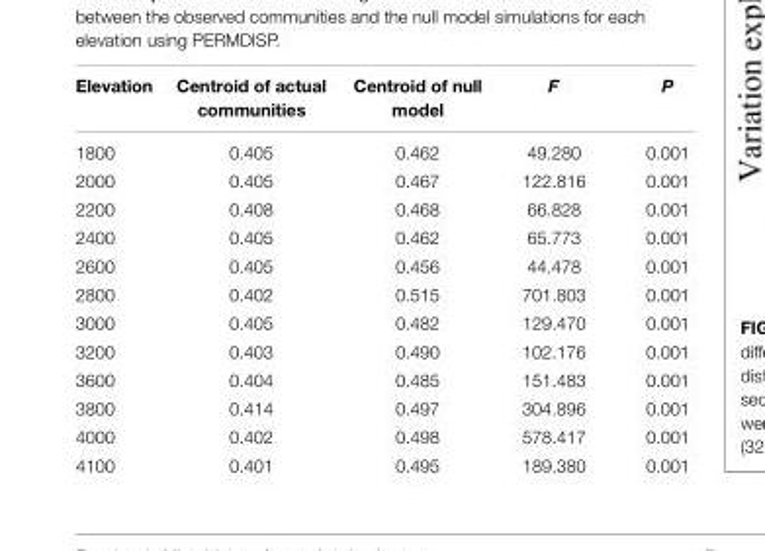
<table><thead><tr><td>Elevation</td><td>Centroid of actual communities</td><td>Centroid of null model</td><td>F</td><td>P</td></tr></thead><tbody><tr><td>1800</td><td>0.405</td><td>0.462</td><td>49.280</td><td>0.001</td></tr><tr><td>2000</td><td>0.405</td><td>0.467</td><td>122.816</td><td>0.001</td></tr><tr><td>2200</td><td>0.408</td><td>0.468</td><td>66.828</td><td>0.001</td></tr><tr><td>2400</td><td>0.405</td><td>0.462</td><td>65.773</td><td>0.001</td></tr><tr><td>2600</td><td>0.405</td><td>0.456</td><td>44.478</td><td>0.001</td></tr><tr><td>2800</td><td>0.402</td><td>0.515</td><td>701.803</td><td>0.001</td></tr><tr><td>3000</td><td>0.405</td><td>0.482</td><td>129.470</td><td>0.001</td></tr><tr><td>3200</td><td>0.403</td><td>0.490</td><td>102.176</td><td>0.001</td></tr><tr><td>3600</td><td>0.404</td><td>0.485</td><td>151.483</td><td>0.001</td></tr><tr><td>3800</td><td>0.414</td><td>0.497</td><td>304.896</td><td>0.001</td></tr><tr><td>4000</td><td>0.402</td><td>0.498</td><td>578.417</td><td>0.001</td></tr><tr><td>4100</td><td>0.401</td><td>0.495</td><td>189.380</td><td>0.001</td></tr></tbody></table>